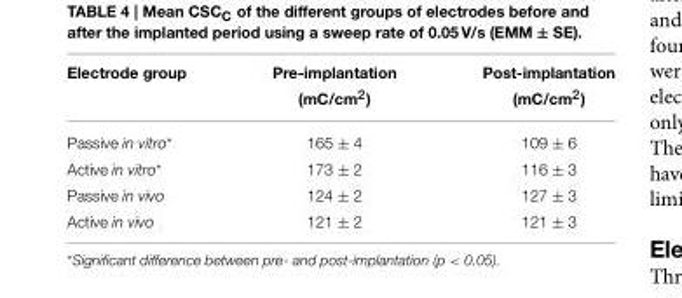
<table><thead><tr><td rowspan="2">Electrode group</td><td rowspan="2">Pre-implantation (mC/cm<sup>2</sup>)</td><td rowspan="2">Post-implantation (mC/cm<sup>2</sup>)</td></tr><tr></tr></thead><tbody><tr><td>Passive in vitro*</td><td>165 ± 4</td><td>109 ± 6</td></tr><tr><td>Active in vitro*</td><td>173 ± 2</td><td>116 ± 3</td></tr><tr><td>Passive in vivo</td><td>124 ± 2</td><td>127 ± 3</td></tr><tr><td>Active in vivo</td><td>121 ± 2</td><td>121 ± 3</td></tr></tbody></table>